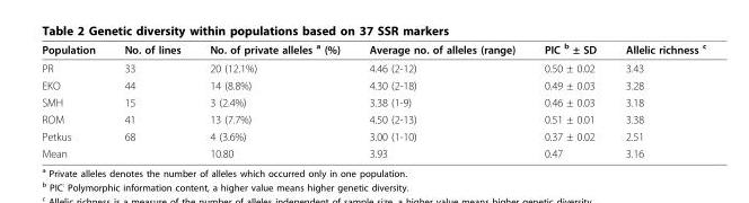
<table><thead><tr><td>Population</td><td>No. of lines</td><td>No. of private alleles <sup>a</sup> (%)</td><td>Average no. of alleles (range)</td><td>PIC <sup>b</sup> ± SD</td><td>Allelic richness <sup>c</sup></td></tr></thead><tbody><tr><td>PR</td><td>33</td><td>20 (12.1%)</td><td>4.46 (2-12)</td><td>0.50 ± 0.02</td><td>3.43</td></tr><tr><td>EKO</td><td>44</td><td>14 (8.8%)</td><td>4.30 (2-18)</td><td>0.49 ± 0.03</td><td>3.28</td></tr><tr><td>SMH</td><td>15</td><td>3 (2.4%)</td><td>3.38 (1-9)</td><td>0.46 ± 0.03</td><td>3.18</td></tr><tr><td>ROM</td><td>41</td><td>13 (7.7%)</td><td>4.50 (2-13)</td><td>0.51 ± 0.01</td><td>3.38</td></tr><tr><td>Petkus</td><td>68</td><td>4 (3.6%)</td><td>3.00 (1-10)</td><td>0.37 ± 0.02</td><td>2.51</td></tr><tr><td>Mean</td><td></td><td>10.80</td><td>3.93</td><td>0.47</td><td>3.16</td></tr></tbody></table>